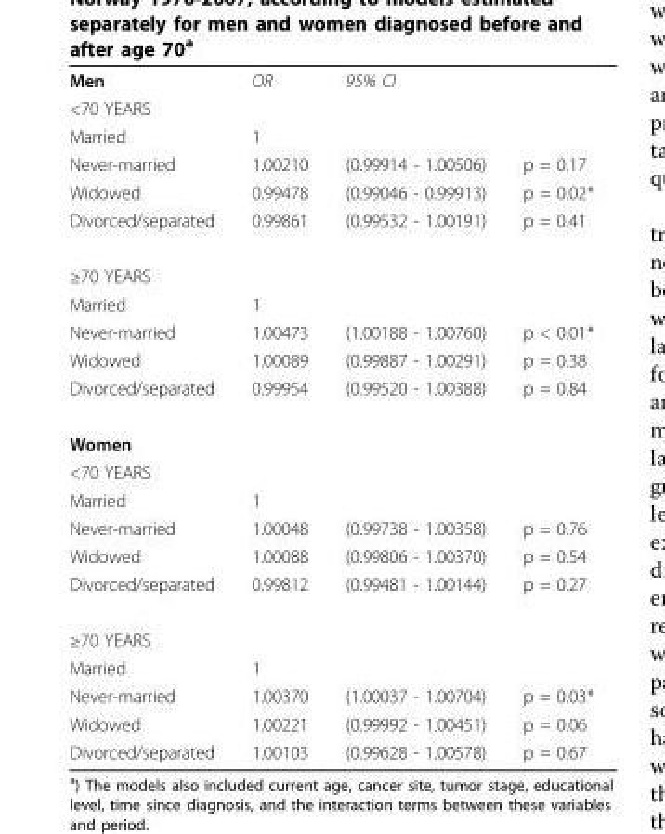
<table><tbody><tr><td>Men</td><td>OR</td><td>95% CI</td><td></td></tr><tr><td colspan="4">&lt;70 YEARS</td></tr><tr><td>Married</td><td>1</td><td></td><td></td></tr><tr><td>Never-married</td><td>1.00210</td><td>(0.99914 - 1.00506)</td><td>p = 0.17</td></tr><tr><td>Widowed</td><td>0.99478</td><td>(0.99046 - 0.99913)</td><td>p = 0.02*</td></tr><tr><td>Divorced/separated</td><td>0.99861</td><td>(0.99532 - 1.00191)</td><td>p = 0.41</td></tr><tr><td colspan="4">≥70 YEARS</td></tr><tr><td>Married</td><td>1</td><td></td><td></td></tr><tr><td>Never-married</td><td>1.00473</td><td>(1.00188 - 1.00760)</td><td>p &lt; 0.01*</td></tr><tr><td>Widowed</td><td>1.00089</td><td>(0.99887 - 1.00291)</td><td>p = 0.38</td></tr><tr><td>Divorced/separated</td><td>0.99954</td><td>(0.99520 - 1.00388)</td><td>p = 0.84</td></tr><tr><td colspan="4">Women</td></tr><tr><td colspan="4">&lt;70 YEARS</td></tr><tr><td>Married</td><td>1</td><td></td><td></td></tr><tr><td>Never-married</td><td>1.00048</td><td>(0.99738 - 1.00358)</td><td>p = 0.76</td></tr><tr><td>Widowed</td><td>1.00088</td><td>(0.99806 - 1.00370)</td><td>p = 0.54</td></tr><tr><td>Divorced/separated</td><td>0.99812</td><td>(0.99481 - 1.00144)</td><td>p = 0.27</td></tr><tr><td colspan="4">≥70 YEARS</td></tr><tr><td>Married</td><td>1</td><td></td><td></td></tr><tr><td>Never-married</td><td>1.00370</td><td>(1.00037 - 1.00704)</td><td>p = 0.03*</td></tr><tr><td>Widowed</td><td>1.00221</td><td>(0.99992 - 1.00451)</td><td>p = 0.06</td></tr><tr><td>Divorced/separated</td><td>1.00103</td><td>(0.99628 - 1.00578)</td><td>p = 0.67</td></tr></tbody></table>